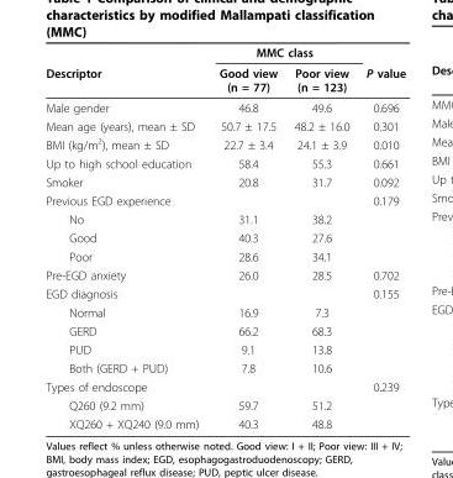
<table><thead><tr><td rowspan="2">Descriptor</td><td colspan="2">MMC class</td><td rowspan="2">P value</td></tr><tr><td>Good view (n = 77)</td><td>Poor view (n = 123)</td></tr></thead><tbody><tr><td>Male gender</td><td>46.8</td><td>49.6</td><td>0.696</td></tr><tr><td>Mean age (years), mean ± SD</td><td>50.7 ± 17.5</td><td>48.2 ± 16.0</td><td>0.301</td></tr><tr><td>BMI (kg/m<sup>2</sup>), mean ± SD</td><td>22.7 ± 3.4</td><td>24.1 ± 3.9</td><td>0.010</td></tr><tr><td>Up to high school education</td><td>58.4</td><td>55.3</td><td>0.661</td></tr><tr><td>Smoker</td><td>20.8</td><td>31.7</td><td>0.092</td></tr><tr><td>Previous EGD experience</td><td></td><td></td><td>0.179</td></tr><tr><td>No</td><td>31.1</td><td>38.2</td><td></td></tr><tr><td>Good</td><td>40.3</td><td>27.6</td><td></td></tr><tr><td>Poor</td><td>28.6</td><td>34.1</td><td></td></tr><tr><td>Pre-EGD anxiety</td><td>26.0</td><td>28.5</td><td>0.702</td></tr><tr><td>EGD diagnosis</td><td></td><td></td><td>0.155</td></tr><tr><td>Normal</td><td>16.9</td><td>7.3</td><td></td></tr><tr><td>GERD</td><td>66.2</td><td>68.3</td><td></td></tr><tr><td>PUD</td><td>9.1</td><td>13.8</td><td></td></tr><tr><td>Both (GERD + PUD)</td><td>7.8</td><td>10.6</td><td></td></tr><tr><td>Types of endoscope</td><td></td><td></td><td>0.239</td></tr><tr><td>Q260 (9.2 mm)</td><td>59.7</td><td>51.2</td><td></td></tr><tr><td>XQ260 + XQ240 (9.0 mm)</td><td>40.3</td><td>48.8</td><td></td></tr></tbody></table>